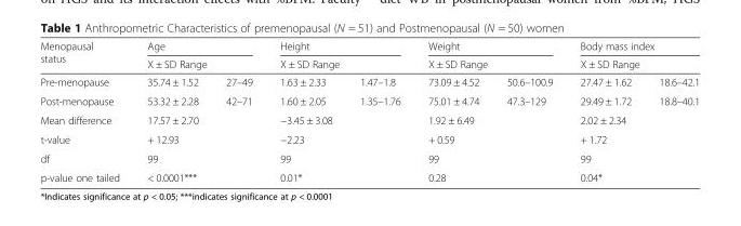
<table><thead><tr><td rowspan="3">Menopausal status Pre-menopause</td><td rowspan="2" colspan="2">Age X ± SD Range</td><td rowspan="2" colspan="2">Height X ± SD Range</td><td rowspan="2" colspan="2">Weight X ± SD Range</td><td rowspan="2" colspan="2">Body mass index X ± SD Range</td></tr><tr></tr><tr><td>35.74 ± 1.52</td><td>27–49</td><td>1.63 ± 2.33</td><td>1.47–1.8</td><td>73.09 ± 4.52</td><td>50.6–100.9</td><td>27.47 ± 1.62</td><td>18.6–42.1</td></tr></thead><tbody><tr><td>Post-menopause</td><td>53.32 ± 2.28</td><td>42–71</td><td>1.60 ± 2.05</td><td>1.35–1.76</td><td>75.01 ± 4.74</td><td>47.3–129</td><td>29.49 ± 1.72</td><td>18.8–40.1</td></tr><tr><td>Mean difference</td><td>17.57 ± 2.70</td><td></td><td>−3.45 ± 3.08</td><td></td><td>1.92 ± 6.49</td><td></td><td>2.02 ± 2.34</td><td></td></tr><tr><td>t-value</td><td>+ 12.93</td><td></td><td>−2.23</td><td></td><td>+ 0.59</td><td></td><td>+ 1.72</td><td></td></tr><tr><td>df</td><td>99</td><td></td><td>99</td><td></td><td>99</td><td></td><td>99</td><td></td></tr><tr><td>p-value one tailed</td><td>&lt; 0.0001***</td><td></td><td>0.01*</td><td></td><td>0.28</td><td></td><td>0.04*</td><td></td></tr></tbody></table>